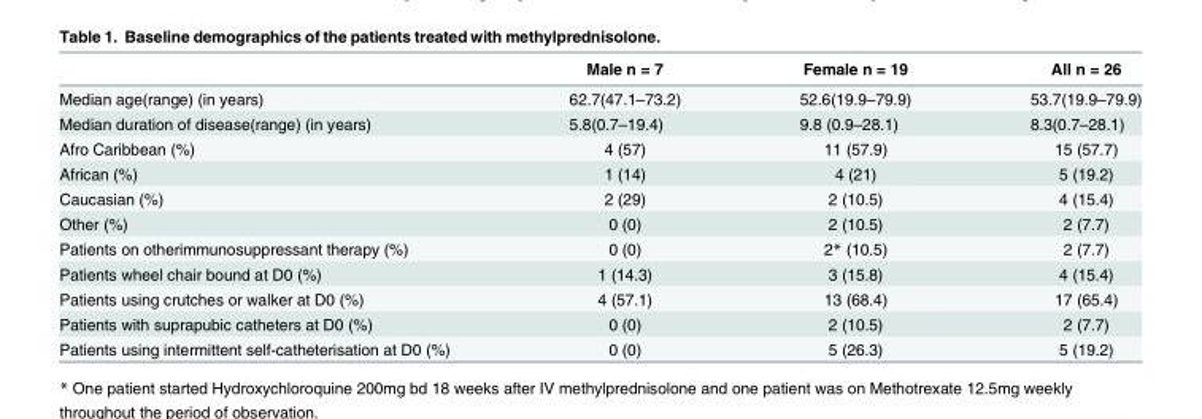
<table><thead><tr><td></td><td>Male n = 7</td><td>Female n = 19</td><td>All n = 26</td></tr></thead><tbody><tr><td>Median age(range) (in years)</td><td>62.7(47.1–73.2)</td><td>52.6(19.9–79.9)</td><td>53.7(19.9–79.9)</td></tr><tr><td>Median duration of disease(range) (in years)</td><td>5.8(0.7–19.4)</td><td>9.8 (0.9–28.1)</td><td>8.3(0.7–28.1)</td></tr><tr><td>Afro Caribbean (%)</td><td>4 (57)</td><td>11 (57.9)</td><td>15 (57.7)</td></tr><tr><td>African (%)</td><td>1 (14)</td><td>4 (21)</td><td>5 (19.2)</td></tr><tr><td>Caucasian (%)</td><td>2 (29)</td><td>2 (10.5)</td><td>4 (15.4)</td></tr><tr><td>Other (%)</td><td>0 (0)</td><td>2 (10.5)</td><td>2 (7.7)</td></tr><tr><td>Patients on otherimmunosuppressant therapy (%)</td><td>0 (0)</td><td>2* (10.5)</td><td>2 (7.7)</td></tr><tr><td>Patients wheel chair bound at D0 (%)</td><td>1 (14.3)</td><td>3 (15.8)</td><td>4 (15.4)</td></tr><tr><td>Patients using crutches or walker at D0 (%)</td><td>4 (57.1)</td><td>13 (68.4)</td><td>17 (65.4)</td></tr><tr><td>Patients with suprapubic catheters at D0 (%)</td><td>0 (0)</td><td>2 (10.5)</td><td>2 (7.7)</td></tr><tr><td>Patients using intermittent self-catheterisation at D0 (%)</td><td>0 (0)</td><td>5 (26.3)</td><td>5 (19.2)</td></tr></tbody></table>